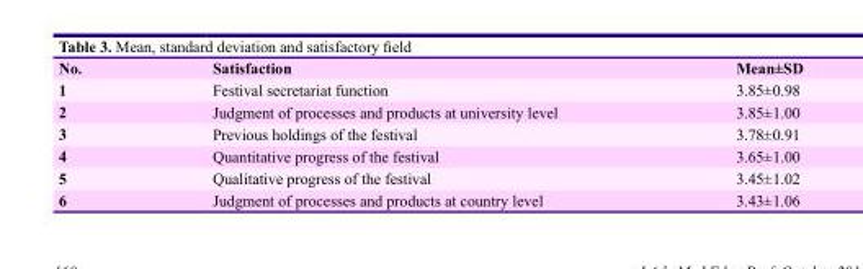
<table><thead><tr><td>No.</td><td>Satisfaction</td><td>Mean±SD</td></tr></thead><tbody><tr><td>1</td><td>Festival secretariat function</td><td>3.85±0.98</td></tr><tr><td>2</td><td>Judgment of processes and products at university level</td><td>3.85±1.00</td></tr><tr><td>3</td><td>Previous holdings of the festival</td><td>3.78±0.91</td></tr><tr><td>4</td><td>Quantitative progress of the festival</td><td>3.65±1.00</td></tr><tr><td>5</td><td>Qualitative progress of the festival</td><td>3.45±1.02</td></tr><tr><td>6</td><td>Judgment of processes and products at country level</td><td>3.43±1.06</td></tr></tbody></table>